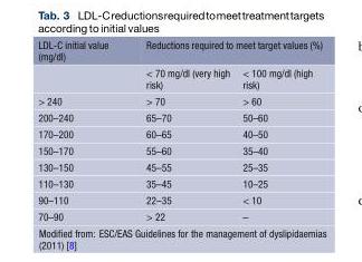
<table><thead><tr><td rowspan="2">LDL-C initial value (mg/dl)</td><td colspan="2">Reductions required to meet target values (%)</td></tr><tr><td>&lt; 70 mg/dl (very high risk)</td><td>&lt; 100 mg/dl (high risk)</td></tr></thead><tbody><tr><td>&gt; 240</td><td>&gt; 70</td><td>&gt; 60</td></tr><tr><td>200–240</td><td>65–70</td><td>50–60</td></tr><tr><td>170–200</td><td>60–65</td><td>40–50</td></tr><tr><td>150–170</td><td>55–60</td><td>35–40</td></tr><tr><td>130–150</td><td>45–55</td><td>25–35</td></tr><tr><td>110–130</td><td>35–45</td><td>10–25</td></tr><tr><td>90–110</td><td>22–35</td><td>&lt; 10</td></tr><tr><td>70–90</td><td>&gt; 22</td><td>–</td></tr></tbody></table>